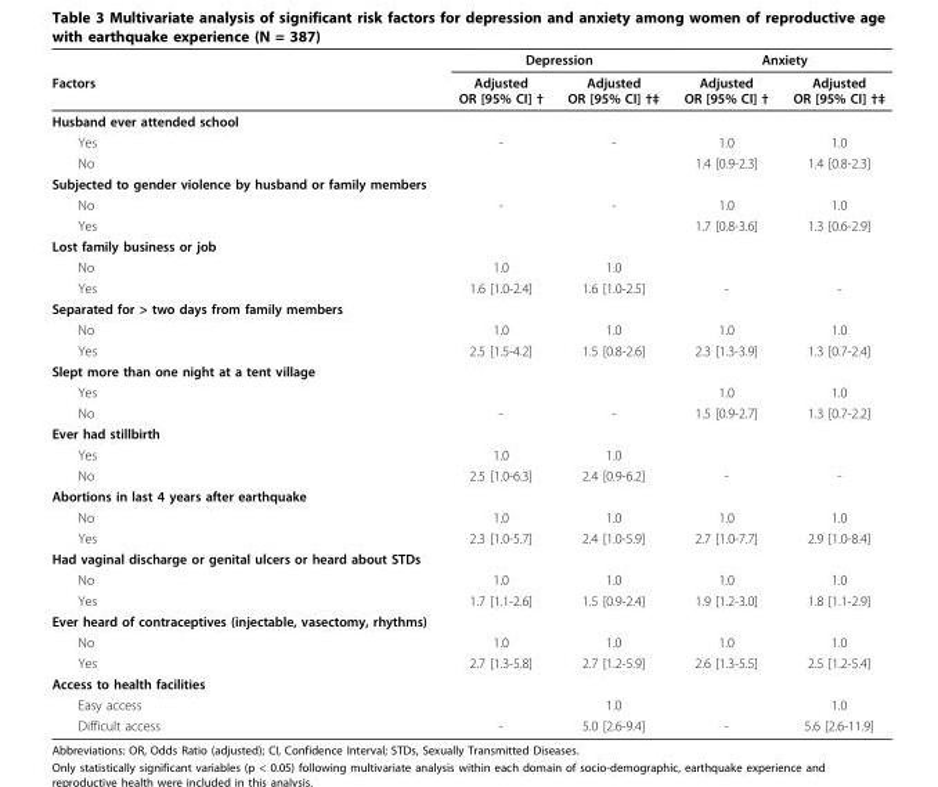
<table><thead><tr><td rowspan="2">Factors</td><td colspan="2">Depression</td><td colspan="2">Anxiety</td></tr><tr><td>Adjusted OR [95% CI] †</td><td>Adjusted OR [95% CI] †‡</td><td>Adjusted OR [95% CI] †</td><td>Adjusted OR [95% CI] †‡</td></tr></thead><tbody><tr><td colspan="5">Husband ever attended school</td></tr><tr><td>Yes</td><td>-</td><td>-</td><td>1.0</td><td>1.0</td></tr><tr><td>No</td><td></td><td></td><td>1.4 [0.9-2.3]</td><td>1.4 [0.8-2.3]</td></tr><tr><td colspan="5">Subjected to gender violence by husband or family members</td></tr><tr><td>No</td><td>-</td><td>-</td><td>1.0</td><td>1.0</td></tr><tr><td>Yes</td><td></td><td></td><td>1.7 [0.8-3.6]</td><td>1.3 [0.6-2.9]</td></tr><tr><td colspan="5">Lost family business or job</td></tr><tr><td>No</td><td>1.0</td><td>1.0</td><td></td><td></td></tr><tr><td>Yes</td><td>1.6 [1.0-2.4]</td><td>1.6 [1.0-2.5]</td><td>-</td><td>-</td></tr><tr><td colspan="5">Separated for &gt; two days from family members</td></tr><tr><td>No</td><td>1.0</td><td>1.0</td><td>1.0</td><td>1.0</td></tr><tr><td>Yes</td><td>2.5 [1.5-4.2]</td><td>1.5 [0.8-2.6]</td><td>2.3 [1.3-3.9]</td><td>1.3 [0.7-2.4]</td></tr><tr><td colspan="5">Slept more than one night at a tent village</td></tr><tr><td>Yes</td><td></td><td></td><td>1.0</td><td>1.0</td></tr><tr><td>No</td><td>-</td><td>-</td><td>1.5 [0.9-2.7]</td><td>1.3 [0.7-2.2]</td></tr><tr><td colspan="5">Ever had stillbirth</td></tr><tr><td>Yes</td><td>1.0</td><td>1.0</td><td></td><td></td></tr><tr><td>No</td><td>2.5 [1.0-6.3]</td><td>2.4 [0.9-6.2]</td><td>-</td><td>-</td></tr><tr><td colspan="5">Abortions in last 4 years after earthquake</td></tr><tr><td>No</td><td>1.0</td><td>1.0</td><td>1.0</td><td>1.0</td></tr><tr><td>Yes</td><td>2.3 [1.0-5.7]</td><td>2.4 [1.0-5.9]</td><td>2.7 [1.0-7.7]</td><td>2.9 [1.0-8.4]</td></tr><tr><td colspan="5">Had vaginal discharge or genital ulcers or heard about STDs</td></tr><tr><td>No</td><td>1.0</td><td>1.0</td><td>1.0</td><td>1.0</td></tr><tr><td>Yes</td><td>1.7 [1.1-2.6]</td><td>1.5 [0.9-2.4]</td><td>1.9 [1.2-3.0]</td><td>1.8 [1.1-2.9]</td></tr><tr><td colspan="5">Ever heard of contraceptives (injectable, vasectomy, rhythms)</td></tr><tr><td>No</td><td>1.0</td><td>1.0</td><td>1.0</td><td>1.0</td></tr><tr><td>Yes</td><td>2.7 [1.3-5.8]</td><td>2.7 [1.2-5.9]</td><td>2.6 [1.3-5.5]</td><td>2.5 [1.2-5.4]</td></tr><tr><td colspan="5">Access to health facilities</td></tr><tr><td>Easy access</td><td></td><td>1.0</td><td></td><td>1.0</td></tr><tr><td>Difficult access</td><td>-</td><td>5.0 [2.6-9.4]</td><td>-</td><td>5.6 [2.6-11.9]</td></tr></tbody></table>